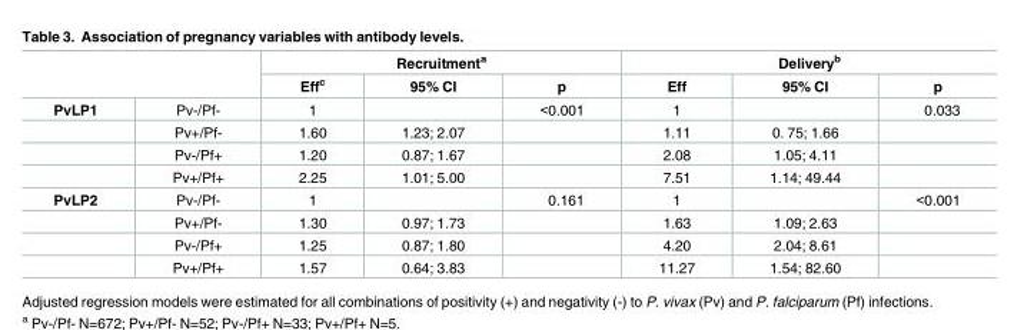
<table><thead><tr><td rowspan="2"></td><td rowspan="2"></td><td colspan="3">Recruitment<sup>a</sup></td><td colspan="3">Delivery<sup>b</sup></td></tr><tr><td>Eff<sup>c</sup></td><td>95% CI</td><td>p</td><td>Eff</td><td>95% CI</td><td>p</td></tr></thead><tbody><tr><td rowspan="4">PvLP1</td><td>Pv-/Pf-</td><td>1</td><td></td><td>&lt;0.001</td><td>1</td><td></td><td>0.033</td></tr><tr><td>Pv+/Pf-</td><td>1.60</td><td>1.23; 2.07</td><td></td><td>1.11</td><td>0. 75; 1.66</td><td></td></tr><tr><td>Pv-/Pf+</td><td>1.20</td><td>0.87; 1.67</td><td></td><td>2.08</td><td>1.05; 4.11</td><td></td></tr><tr><td>Pv+/Pf+</td><td>2.25</td><td>1.01; 5.00</td><td></td><td>7.51</td><td>1.14; 49.44</td><td></td></tr><tr><td rowspan="4">PvLP2</td><td>Pv-/Pf-</td><td>1</td><td></td><td>0.161</td><td>1</td><td></td><td>&lt;0.001</td></tr><tr><td>Pv+/Pf-</td><td>1.30</td><td>0.97; 1.73</td><td></td><td>1.63</td><td>1.09; 2.63</td><td></td></tr><tr><td>Pv-/Pf+</td><td>1.25</td><td>0.87; 1.80</td><td></td><td>4.20</td><td>2.04; 8.61</td><td></td></tr><tr><td>Pv+/Pf+</td><td>1.57</td><td>0.64; 3.83</td><td></td><td>11.27</td><td>1.54; 82.60</td><td></td></tr></tbody></table>